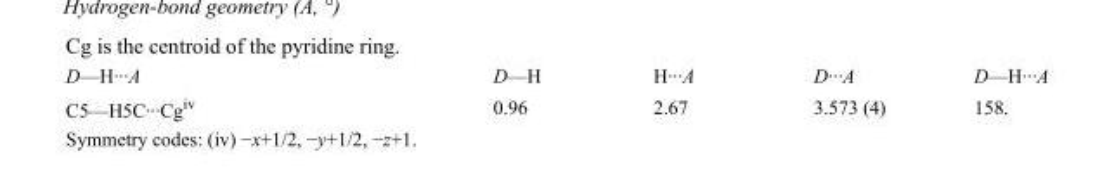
<table><tbody><tr><td>D—H···A</td><td>D—H</td><td>H···A</td><td>D···A</td><td>D—H···A</td></tr><tr><td>C5—H5C···Cg<sup>iv</sup></td><td>0.96</td><td>2.67</td><td>3.573 (4)</td><td>158.</td></tr></tbody></table>